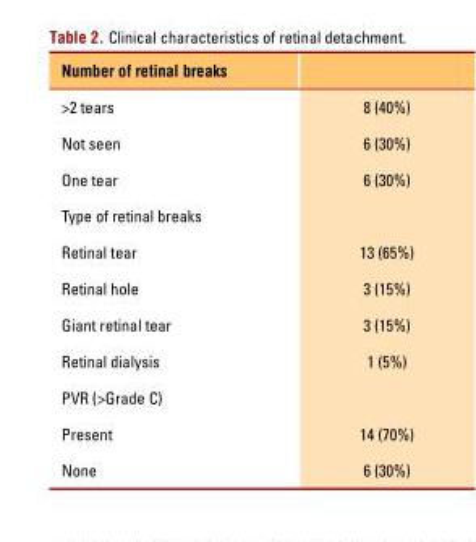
<table><thead><tr><td>Number of retinal breaks</td><td></td></tr></thead><tbody><tr><td>&gt;2 tears</td><td>8 (40%)</td></tr><tr><td>Not seen</td><td>6 (30%)</td></tr><tr><td>One tear</td><td>6 (30%)</td></tr><tr><td colspan="2">Type of retinal breaks</td></tr><tr><td>Retinal tear</td><td>13 (65%)</td></tr><tr><td>Retinal hole</td><td>3 (15%)</td></tr><tr><td>Giant retinal tear</td><td>3 (15%)</td></tr><tr><td>Retinal dialysis</td><td>1 (5%)</td></tr><tr><td colspan="2">PVR (&gt;Grade C)</td></tr><tr><td>Present</td><td>14 (70%)</td></tr><tr><td>None</td><td>6 (30%)</td></tr></tbody></table>